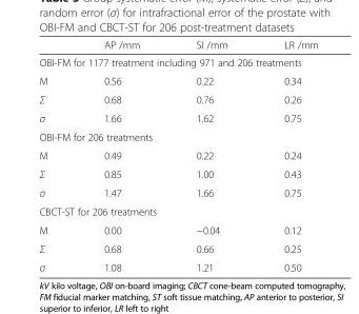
<table><thead><tr><td></td><td>AP /mm</td><td>SI /mm</td><td>LR /mm</td></tr></thead><tbody><tr><td colspan="4">OBI-FM for 1177 treatment including 971 and 206 treatments</td></tr><tr><td>M</td><td>0.56</td><td>0.22</td><td>0.34</td></tr><tr><td>Σ</td><td>0.68</td><td>0.76</td><td>0.26</td></tr><tr><td>σ</td><td>1.66</td><td>1.62</td><td>0.75</td></tr><tr><td colspan="4">OBI-FM for 206 treatments</td></tr><tr><td>M</td><td>0.49</td><td>0.22</td><td>0.24</td></tr><tr><td>Σ</td><td>0.85</td><td>1.00</td><td>0.43</td></tr><tr><td>σ</td><td>1.47</td><td>1.66</td><td>0.75</td></tr><tr><td colspan="4">CBCT-ST for 206 treatments</td></tr><tr><td>M</td><td>0.00</td><td>−0.04</td><td>0.12</td></tr><tr><td>Σ</td><td>0.68</td><td>0.66</td><td>0.25</td></tr><tr><td>σ</td><td>1.08</td><td>1.21</td><td>0.50</td></tr></tbody></table>